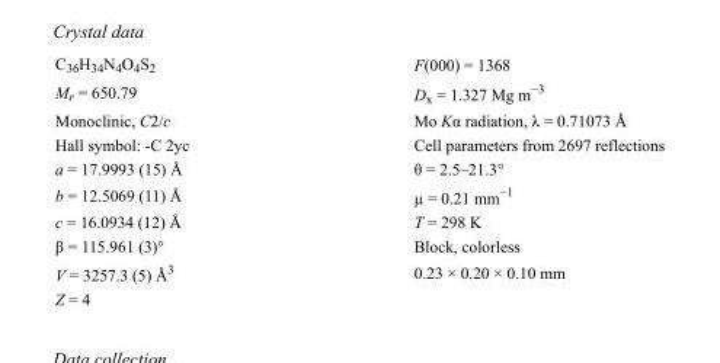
<table><tbody><tr><td>C<sub>36</sub>H<sub>34</sub>N<sub>4</sub>O<sub>4</sub>S<sub>2</sub></td><td>F(000) = 1368</td></tr><tr><td>M<sub>r</sub> = 650.79</td><td>D<sub>x</sub> = 1.327 Mg m<sup>−3</sup></td></tr><tr><td>Monoclinic, C2/c</td><td>Mo Kα radiation, λ = 0.71073 Å</td></tr><tr><td>Hall symbol: -C 2yc</td><td>Cell parameters from 2697 reflections</td></tr><tr><td>a = 17.9993 (15) Å</td><td>θ = 2.5–21.3°</td></tr><tr><td>b = 12.5069 (11) Å</td><td>µ = 0.21 mm<sup>−1</sup></td></tr><tr><td>c = 16.0934 (12) Å</td><td>T = 298 K</td></tr><tr><td>β = 115.961 (3)°</td><td>Block, colorless</td></tr><tr><td>V = 3257.3 (5) Å<sup>3</sup></td><td>0.23 × 0.20 × 0.10 mm</td></tr><tr><td>Z = 4</td><td></td></tr></tbody></table>